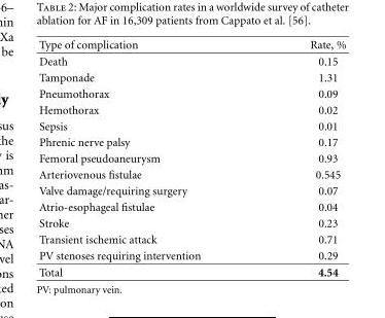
<table><thead><tr><td>Type of complication</td><td>Rate, %</td></tr></thead><tbody><tr><td>Death</td><td>0.15</td></tr><tr><td>Tamponade</td><td>1.31</td></tr><tr><td>Pneumothorax</td><td>0.09</td></tr><tr><td>Hemothorax</td><td>0.02</td></tr><tr><td>Sepsis</td><td>0.01</td></tr><tr><td>Phrenic nerve palsy</td><td>0.17</td></tr><tr><td>Femoral pseudoaneurysm</td><td>0.93</td></tr><tr><td>Arteriovenous fistulae</td><td>0.545</td></tr><tr><td>Valve damage/requiring surgery</td><td>0.07</td></tr><tr><td>Atrio-esophageal fistulae</td><td>0.04</td></tr><tr><td>Stroke</td><td>0.23</td></tr><tr><td>Transient ischemic attack</td><td>0.71</td></tr><tr><td>PV stenoses requiring intervention</td><td>0.29</td></tr><tr><td>Total</td><td>4.54</td></tr></tbody></table>